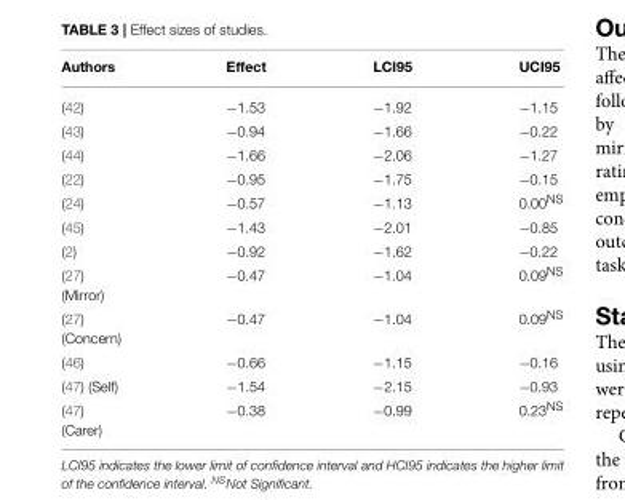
<table><thead><tr><td>Authors</td><td>Effect</td><td>LCI95</td><td>UCI95</td></tr></thead><tbody><tr><td>(42)</td><td>−1.53</td><td>−1.92</td><td>−1.15</td></tr><tr><td>(43)</td><td>−0.94</td><td>−1.66</td><td>−0.22</td></tr><tr><td>(44)</td><td>−1.66</td><td>−2.06</td><td>−1.27</td></tr><tr><td>(22)</td><td>−0.95</td><td>−1.75</td><td>−0.15</td></tr><tr><td>(24)</td><td>−0.57</td><td>−1.13</td><td>0.00<sup>NS</sup></td></tr><tr><td>(45)</td><td>−1.43</td><td>−2.01</td><td>−0.85</td></tr><tr><td>(2)</td><td>−0.92</td><td>−1.62</td><td>−0.22</td></tr><tr><td>(27) (Mirror)</td><td>−0.47</td><td>−1.04</td><td>0.09<sup>NS</sup></td></tr><tr><td>(27) (Concern)</td><td>−0.47</td><td>−1.04</td><td>0.09<sup>NS</sup></td></tr><tr><td>(46)</td><td>−0.66</td><td>−1.15</td><td>−0.16</td></tr><tr><td>(47) (Self)</td><td>−1.54</td><td>−2.15</td><td>−0.93</td></tr><tr><td>(47) (Carer)</td><td>−0.38</td><td>−0.99</td><td>0.23<sup>NS</sup></td></tr></tbody></table>